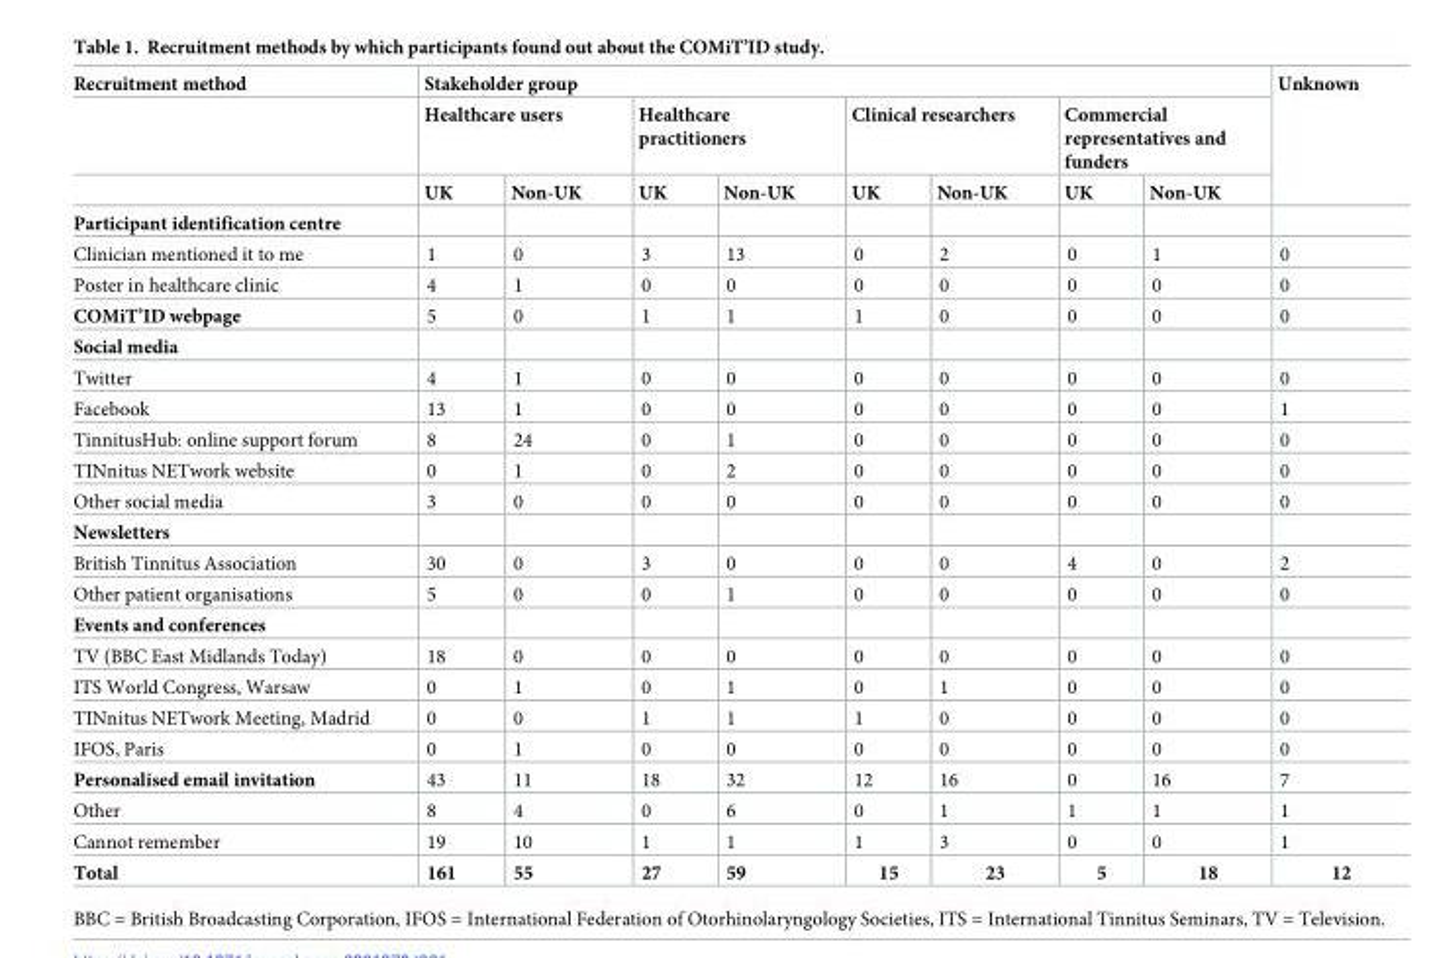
<table><thead><tr><td rowspan="3">Recruitment method</td><td colspan="8">Stakeholder group</td><td rowspan="3">Unknown</td></tr><tr><td colspan="2">Healthcare users</td><td colspan="2">Healthcare practitioners</td><td colspan="2">Clinical researchers</td><td colspan="2">Commercial representatives and funders</td></tr><tr><td>UK</td><td>Non-UK</td><td>UK</td><td>Non-UK</td><td>UK</td><td>Non-UK</td><td>UK</td><td>Non-UK</td></tr></thead><tbody><tr><td colspan="10">Participant identification centre</td></tr><tr><td>Clinician mentioned it to me</td><td>1</td><td>0</td><td>3</td><td>13</td><td>0</td><td>2</td><td>0</td><td>1</td><td>0</td></tr><tr><td>Poster in healthcare clinic</td><td>4</td><td>1</td><td>0</td><td>0</td><td>0</td><td>0</td><td>0</td><td>0</td><td>0</td></tr><tr><td>COMiT’ID webpage</td><td>5</td><td>0</td><td>1</td><td>1</td><td>1</td><td>0</td><td>0</td><td>0</td><td>0</td></tr><tr><td colspan="10">Social media</td></tr><tr><td>Twitter</td><td>4</td><td>1</td><td>0</td><td>0</td><td>0</td><td>0</td><td>0</td><td>0</td><td>0</td></tr><tr><td>Facebook</td><td>13</td><td>1</td><td>0</td><td>0</td><td>0</td><td>0</td><td>0</td><td>0</td><td>1</td></tr><tr><td>TinnitusHub: online support forum</td><td>8</td><td>24</td><td>0</td><td>1</td><td>0</td><td>0</td><td>0</td><td>0</td><td>0</td></tr><tr><td>TINnitus NETwork website</td><td>0</td><td>1</td><td>0</td><td>2</td><td>0</td><td>0</td><td>0</td><td>0</td><td>0</td></tr><tr><td>Other social media</td><td>3</td><td>0</td><td>0</td><td>0</td><td>0</td><td>0</td><td>0</td><td>0</td><td>0</td></tr><tr><td colspan="10">Newsletters</td></tr><tr><td>British Tinnitus Association</td><td>30</td><td>0</td><td>3</td><td>0</td><td>0</td><td>0</td><td>4</td><td>0</td><td>2</td></tr><tr><td>Other patient organisations</td><td>5</td><td>0</td><td>0</td><td>1</td><td>0</td><td>0</td><td>0</td><td>0</td><td>0</td></tr><tr><td colspan="10">Events and conferences</td></tr><tr><td>TV (BBC East Midlands Today)</td><td>18</td><td>0</td><td>0</td><td>0</td><td>0</td><td>0</td><td>0</td><td>0</td><td>0</td></tr><tr><td>ITS World Congress, Warsaw</td><td>0</td><td>1</td><td>0</td><td>1</td><td>0</td><td>1</td><td>0</td><td>0</td><td>0</td></tr><tr><td>TINnitus NETwork Meeting, Madrid</td><td>0</td><td>0</td><td>1</td><td>1</td><td>1</td><td>0</td><td>0</td><td>0</td><td>0</td></tr><tr><td>IFOS, Paris</td><td>0</td><td>1</td><td>0</td><td>0</td><td>0</td><td>0</td><td>0</td><td>0</td><td>0</td></tr><tr><td>Personalised email invitation</td><td>43</td><td>11</td><td>18</td><td>32</td><td>12</td><td>16</td><td>0</td><td>16</td><td>7</td></tr><tr><td>Other</td><td>8</td><td>4</td><td>0</td><td>6</td><td>0</td><td>1</td><td>1</td><td>1</td><td>1</td></tr><tr><td>Cannot remember</td><td>19</td><td>10</td><td>1</td><td>1</td><td>1</td><td>3</td><td>0</td><td>0</td><td>1</td></tr><tr><td>Total</td><td>161</td><td>55</td><td>27</td><td>59</td><td>15</td><td>23</td><td>5</td><td>18</td><td>12</td></tr></tbody></table>